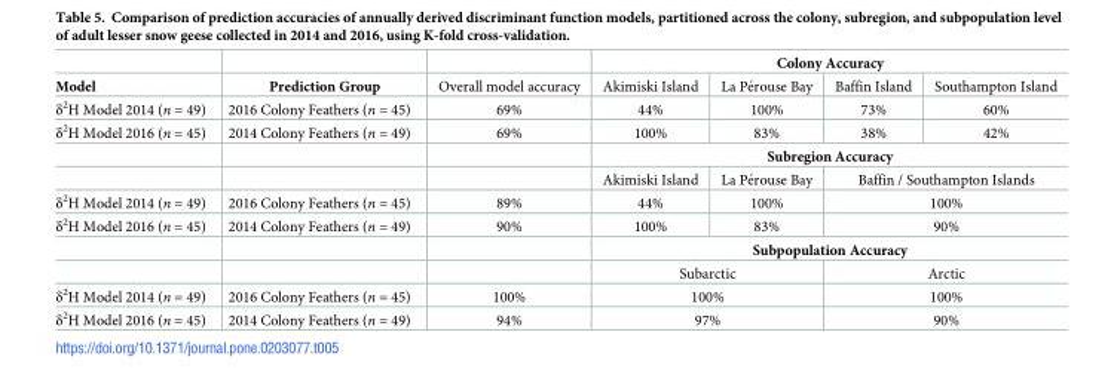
<table><thead><tr><td rowspan="2">Model</td><td rowspan="2">Prediction Group</td><td rowspan="2">Overall model accuracy</td><td colspan="4">Colony Accuracy</td></tr><tr><td>Akimiski Island</td><td>La Pe´rouse Bay</td><td>Baffin Island</td><td>Southampton Island</td></tr></thead><tbody><tr><td>δ<sup>2</sup>H Model 2014 (n = 49)</td><td>2016 Colony Feathers (n = 45)</td><td>69%</td><td>44%</td><td>100%</td><td>73%</td><td>60%</td></tr><tr><td rowspan="3">δ<sup>2</sup>H Model 2016 (n = 45)</td><td>2014 Colony Feathers (n = 49)</td><td>69%</td><td>100%</td><td>83%</td><td>38%</td><td>42%</td></tr><tr><td></td><td></td><td colspan="4">Subregion Accuracy</td></tr><tr><td></td><td></td><td>Akimiski Island</td><td>La Pe´rouse Bay</td><td colspan="2">Baffin / Southampton Islands</td></tr><tr><td>δ<sup>2</sup>H Model 2014 (n = 49)</td><td>2016 Colony Feathers (n = 45)</td><td>89%</td><td>44%</td><td>100%</td><td colspan="2">100%</td></tr><tr><td rowspan="3">δ<sup>2</sup>H Model 2016 (n = 45)</td><td>2014 Colony Feathers (n = 49)</td><td>90%</td><td>100%</td><td>83%</td><td colspan="2">90%</td></tr><tr><td></td><td></td><td colspan="4">Subpopulation Accuracy</td></tr><tr><td></td><td></td><td colspan="2">Subarctic</td><td colspan="2">Arctic</td></tr><tr><td>δ<sup>2</sup>H Model 2014 (n = 49)</td><td>2016 Colony Feathers (n = 45)</td><td>100%</td><td colspan="2">100%</td><td colspan="2">100%</td></tr><tr><td>δ<sup>2</sup>H Model 2016 (n = 45)</td><td>2014 Colony Feathers (n = 49)</td><td>94%</td><td colspan="2">97%</td><td colspan="2">90%</td></tr></tbody></table>